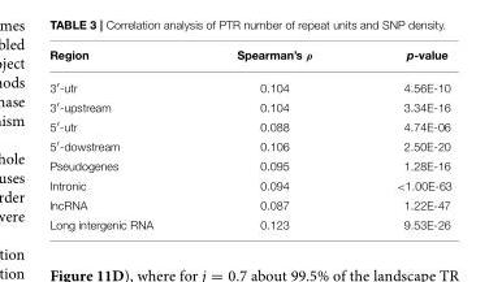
<table><thead><tr><td>Region</td><td>Spearman’s ρ</td><td>p-value</td></tr></thead><tbody><tr><td>3′-utr</td><td>0.104</td><td>4.56E-10</td></tr><tr><td>3′-upstream</td><td>0.104</td><td>3.34E-16</td></tr><tr><td>5′-utr</td><td>0.088</td><td>4.74E-06</td></tr><tr><td>5′-dowstream</td><td>0.106</td><td>2.50E-20</td></tr><tr><td>Pseudogenes</td><td>0.095</td><td>1.28E-16</td></tr><tr><td>Intronic</td><td>0.094</td><td>&lt;1.00E-63</td></tr><tr><td>lncRNA</td><td>0.087</td><td>1.22E-47</td></tr><tr><td>Long intergenic RNA</td><td>0.123</td><td>9.53E-26</td></tr></tbody></table>